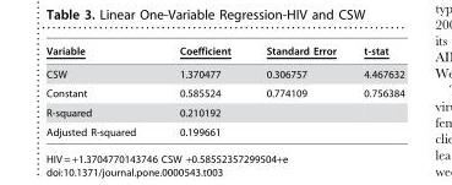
<table><thead><tr><td>Variable</td><td>Coefficient</td><td>Standard Error</td><td>t-stat</td></tr></thead><tbody><tr><td>CSW</td><td>1.370477</td><td>0.306757</td><td>4.467632</td></tr><tr><td>Constant</td><td>0.585524</td><td>0.774109</td><td>0.756384</td></tr><tr><td>R-squared</td><td>0.210192</td><td></td><td></td></tr><tr><td>Adjusted R-squared</td><td>0.199661</td><td></td><td></td></tr></tbody></table>